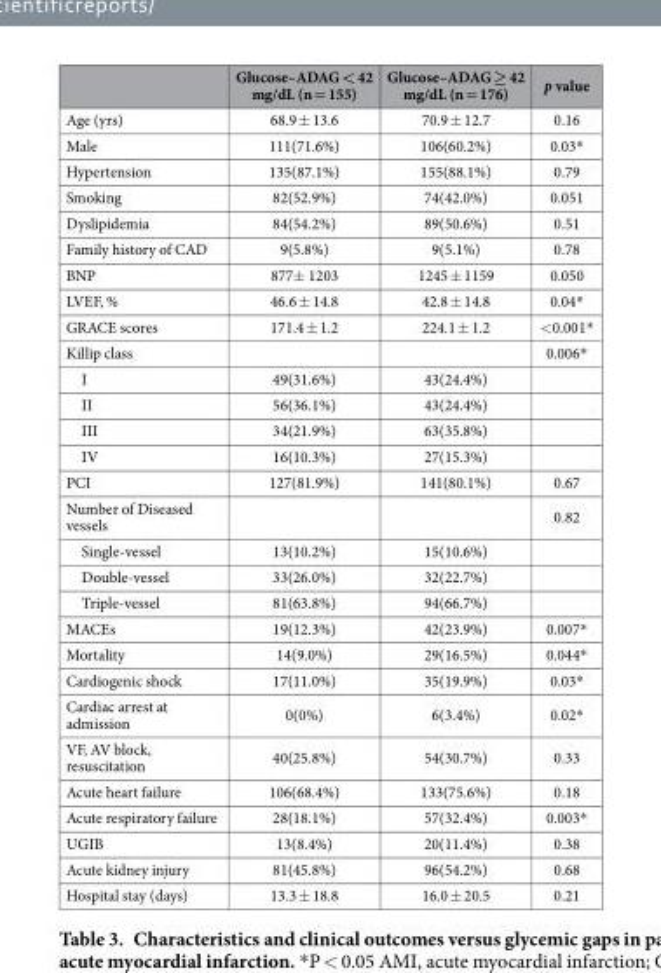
<table><thead><tr><td></td><td>Glucose–ADAG &lt; 42 mg/dL (n = 155)</td><td>Glucose–ADAG ≥ 42 mg/dL (n = 176)</td><td>p value</td></tr></thead><tbody><tr><td>Age (yrs)</td><td>68.9 ± 13.6</td><td>70.9 ± 12.7</td><td>0.16</td></tr><tr><td>Male</td><td>111(71.6%)</td><td>106(60.2%)</td><td>0.03*</td></tr><tr><td>Hypertension</td><td>135(87.1%)</td><td>155(88.1%)</td><td>0.79</td></tr><tr><td>Smoking</td><td>82(52.9%)</td><td>74(42.0%)</td><td>0.051</td></tr><tr><td>Dyslipidemia</td><td>84(54.2%)</td><td>89(50.6%)</td><td>0.51</td></tr><tr><td>Family history of CAD</td><td>9(5.8%)</td><td>9(5.1%)</td><td>0.78</td></tr><tr><td>BNP</td><td>877± 1203</td><td>1245 ± 1159</td><td>0.050</td></tr><tr><td>LVEF, %</td><td>46.6 ± 14.8</td><td>42.8 ± 14.8</td><td>0.04*</td></tr><tr><td>GRACE scores</td><td>171.4 ± 1.2</td><td>224.1 ± 1.2</td><td>&lt; 0.001*</td></tr><tr><td>Killip class</td><td></td><td></td><td>0.006*</td></tr><tr><td>I</td><td>49(31.6%)</td><td>43(24.4%)</td><td></td></tr><tr><td>II</td><td>56(36.1%)</td><td>43(24.4%)</td><td></td></tr><tr><td>III</td><td>34(21.9%)</td><td>63(35.8%)</td><td></td></tr><tr><td>IV</td><td>16(10.3%)</td><td>27(15.3%)</td><td></td></tr><tr><td>PCI</td><td>127(81.9%)</td><td>141(80.1%)</td><td>0.67</td></tr><tr><td>Number of Diseased vessels</td><td></td><td></td><td>0.82</td></tr><tr><td>Single-vessel</td><td>13(10.2%)</td><td>15(10.6%)</td><td></td></tr><tr><td>Double-vessel</td><td>33(26.0%)</td><td>32(22.7%)</td><td></td></tr><tr><td>Triple-vessel</td><td>81(63.8%)</td><td>94(66.7%)</td><td></td></tr><tr><td>MACEs</td><td>19(12.3%)</td><td>42(23.9%)</td><td>0.007*</td></tr><tr><td>Mortality</td><td>14(9.0%)</td><td>29(16.5%)</td><td>0.044*</td></tr><tr><td>Cardiogenic shock</td><td>17(11.0%)</td><td>35(19.9%)</td><td>0.03*</td></tr><tr><td>Cardiac arrest at admission</td><td>0(0%)</td><td>6(3.4%)</td><td>0.02*</td></tr><tr><td>VF, AV block, resuscitation</td><td>40(25.8%)</td><td>54(30.7%)</td><td>0.33</td></tr><tr><td>Acute heart failure</td><td>106(68.4%)</td><td>133(75.6%)</td><td>0.18</td></tr><tr><td>Acute respiratory failure</td><td>28(18.1%)</td><td>57(32.4%)</td><td>0.003*</td></tr><tr><td>UGIB</td><td>13(8.4%)</td><td>20(11.4%)</td><td>0.38</td></tr><tr><td>Acute kidney injury</td><td>81(45.8%)</td><td>96(54.2%)</td><td>0.68</td></tr><tr><td>Hospital stay (days)</td><td>13.3 ± 18.8</td><td>16.0 ± 20.5</td><td>0.21</td></tr></tbody></table>